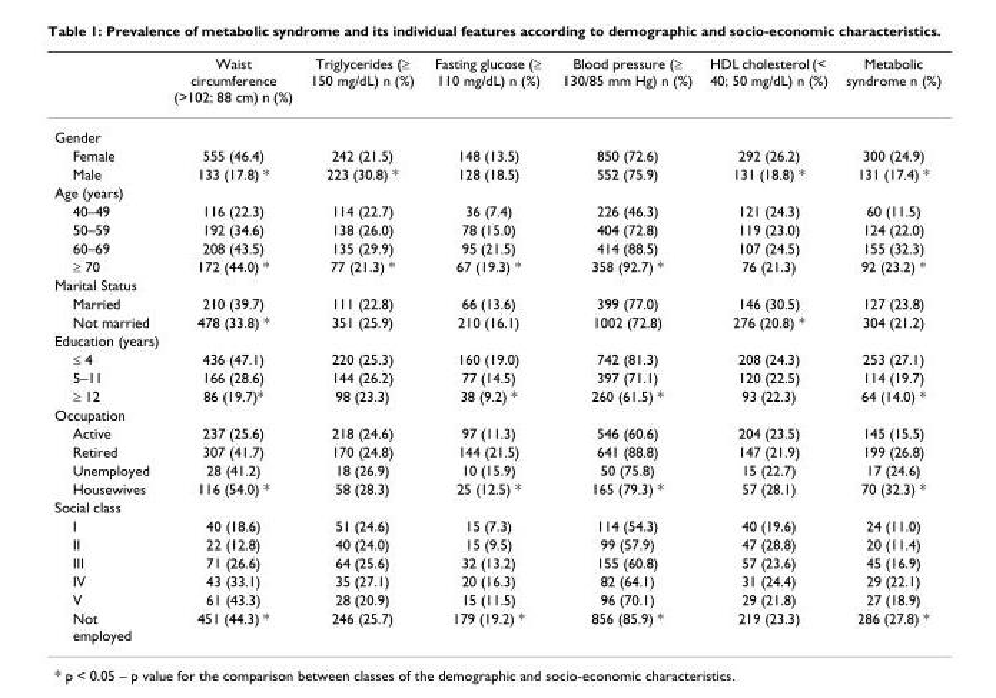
<table><thead><tr><td></td><td>Waist circumference (&gt;102; 88 cm) n (%)</td><td>Triglycerides (≥ 150 mg/dL) n (%)</td><td>Fasting glucose (≥ 110 mg/dL) n (%)</td><td>Blood pressure (≥ 130/85 mm Hg) n (%)</td><td>HDL cholesterol (&lt; 40; 50 mg/dL) n (%)</td><td>Metabolic syndrome n (%)</td></tr></thead><tbody><tr><td colspan="7">Gender</td></tr><tr><td>Female</td><td>555 (46.4)</td><td>242 (21.5)</td><td>148 (13.5)</td><td>850 (72.6)</td><td>292 (26.2)</td><td>300 (24.9)</td></tr><tr><td>Male</td><td>133 (17.8) *</td><td>223 (30.8) *</td><td>128 (18.5)</td><td>552 (75.9)</td><td>131 (18.8) *</td><td>131 (17.4) *</td></tr><tr><td colspan="7">Age (years)</td></tr><tr><td>40–49</td><td>116 (22.3)</td><td>114 (22.7)</td><td>36 (7.4)</td><td>226 (46.3)</td><td>121 (24.3)</td><td>60 (11.5)</td></tr><tr><td>50–59</td><td>192 (34.6)</td><td>138 (26.0)</td><td>78 (15.0)</td><td>404 (72.8)</td><td>119 (23.0)</td><td>124 (22.0)</td></tr><tr><td>60–69</td><td>208 (43.5)</td><td>135 (29.9)</td><td>95 (21.5)</td><td>414 (88.5)</td><td>107 (24.5)</td><td>155 (32.3)</td></tr><tr><td>≥ 70</td><td>172 (44.0) *</td><td>77 (21.3) *</td><td>67 (19.3) *</td><td>358 (92.7) *</td><td>76 (21.3)</td><td>92 (23.2) *</td></tr><tr><td colspan="7">Marital Status</td></tr><tr><td>Married</td><td>210 (39.7)</td><td>111 (22.8)</td><td>66 (13.6)</td><td>399 (77.0)</td><td>146 (30.5)</td><td>127 (23.8)</td></tr><tr><td>Not married</td><td>478 (33.8) *</td><td>351 (25.9)</td><td>210 (16.1)</td><td>1002 (72.8)</td><td>276 (20.8) *</td><td>304 (21.2)</td></tr><tr><td colspan="7">Education (years)</td></tr><tr><td>≤ 4</td><td>436 (47.1)</td><td>220 (25.3)</td><td>160 (19.0)</td><td>742 (81.3)</td><td>208 (24.3)</td><td>253 (27.1)</td></tr><tr><td>5–11</td><td>166 (28.6)</td><td>144 (26.2)</td><td>77 (14.5)</td><td>397 (71.1)</td><td>120 (22.5)</td><td>114 (19.7)</td></tr><tr><td>≥ 12</td><td>86 (19.7)*</td><td>98 (23.3)</td><td>38 (9.2) *</td><td>260 (61.5) *</td><td>93 (22.3)</td><td>64 (14.0) *</td></tr><tr><td colspan="7">Occupation</td></tr><tr><td>Active</td><td>237 (25.6)</td><td>218 (24.6)</td><td>97 (11.3)</td><td>546 (60.6)</td><td>204 (23.5)</td><td>145 (15.5)</td></tr><tr><td>Retired</td><td>307 (41.7)</td><td>170 (24.8)</td><td>144 (21.5)</td><td>641 (88.8)</td><td>147 (21.9)</td><td>199 (26.8)</td></tr><tr><td>Unemployed</td><td>28 (41.2)</td><td>18 (26.9)</td><td>10 (15.9)</td><td>50 (75.8)</td><td>15 (22.7)</td><td>17 (24.6)</td></tr><tr><td>Housewives</td><td>116 (54.0) *</td><td>58 (28.3)</td><td>25 (12.5) *</td><td>165 (79.3) *</td><td>57 (28.1)</td><td>70 (32.3) *</td></tr><tr><td colspan="7">Social class</td></tr><tr><td>I</td><td>40 (18.6)</td><td>51 (24.6)</td><td>15 (7.3)</td><td>114 (54.3)</td><td>40 (19.6)</td><td>24 (11.0)</td></tr><tr><td>II</td><td>22 (12.8)</td><td>40 (24.0)</td><td>15 (9.5)</td><td>99 (57.9)</td><td>47 (28.8)</td><td>20 (11.4)</td></tr><tr><td>III</td><td>71 (26.6)</td><td>64 (25.6)</td><td>32 (13.2)</td><td>155 (60.8)</td><td>57 (23.6)</td><td>45 (16.9)</td></tr><tr><td>IV</td><td>43 (33.1)</td><td>35 (27.1)</td><td>20 (16.3)</td><td>82 (64.1)</td><td>31 (24.4)</td><td>29 (22.1)</td></tr><tr><td>V</td><td>61 (43.3)</td><td>28 (20.9)</td><td>15 (11.5)</td><td>96 (70.1)</td><td>29 (21.8)</td><td>27 (18.9)</td></tr><tr><td>Not employed</td><td>451 (44.3) *</td><td>246 (25.7)</td><td>179 (19.2) *</td><td>856 (85.9) *</td><td>219 (23.3)</td><td>286 (27.8) *</td></tr></tbody></table>